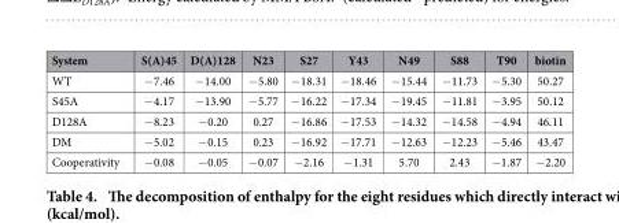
<table><thead><tr><td>System</td><td>S(A)45</td><td>D(A)128</td><td>N23</td><td>S27</td><td>Y43</td><td>N49</td><td>S88</td><td>T90</td><td>biotin</td></tr></thead><tbody><tr><td>WT</td><td>− 7.46</td><td>− 14.00</td><td>− 5.80</td><td>− 18.31</td><td>− 18.46</td><td>− 15.44</td><td>− 11.73</td><td>− 5.30</td><td>50.27</td></tr><tr><td>S45A</td><td>− 4.17</td><td>− 13.90</td><td>− 5.77</td><td>− 16.22</td><td>− 17.34</td><td>− 19.45</td><td>− 11.81</td><td>− 3.95</td><td>50.12</td></tr><tr><td>D128A</td><td>− 8.23</td><td>− 0.20</td><td>0.27</td><td>− 16.86</td><td>− 17.53</td><td>− 14.32</td><td>− 14.58</td><td>− 4.94</td><td>46.11</td></tr><tr><td>DM</td><td>− 5.02</td><td>− 0.15</td><td>0.23</td><td>− 16.92</td><td>− 17.71</td><td>− 12.63</td><td>− 12.23</td><td>− 5.46</td><td>43.47</td></tr><tr><td>Cooperativity</td><td>− 0.08</td><td>− 0.05</td><td>− 0.07</td><td>− 2.16</td><td>− 1.31</td><td>5.70</td><td>2.43</td><td>− 1.87</td><td>− 2.20</td></tr></tbody></table>